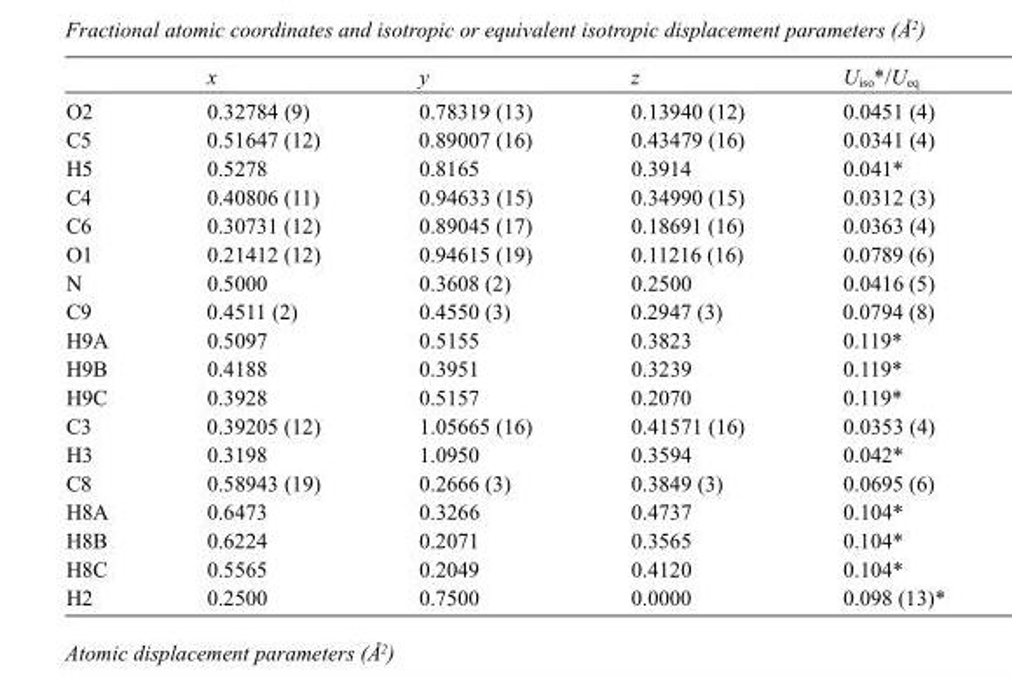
<table><thead><tr><td></td><td>x</td><td>y</td><td>z</td><td>U<sub>iso</sub>*/U<sub>eq</sub></td></tr></thead><tbody><tr><td>O2</td><td>0.32784 (9)</td><td>0.78319 (13)</td><td>0.13940 (12)</td><td>0.0451 (4)</td></tr><tr><td>C5</td><td>0.51647 (12)</td><td>0.89007 (16)</td><td>0.43479 (16)</td><td>0.0341 (4)</td></tr><tr><td>H5</td><td>0.5278</td><td>0.8165</td><td>0.3914</td><td>0.041*</td></tr><tr><td>C4</td><td>0.40806 (11)</td><td>0.94633 (15)</td><td>0.34990 (15)</td><td>0.0312 (3)</td></tr><tr><td>C6</td><td>0.30731 (12)</td><td>0.89045 (17)</td><td>0.18691 (16)</td><td>0.0363 (4)</td></tr><tr><td>O1</td><td>0.21412 (12)</td><td>0.94615 (19)</td><td>0.11216 (16)</td><td>0.0789 (6)</td></tr><tr><td>N</td><td>0.5000</td><td>0.3608 (2)</td><td>0.2500</td><td>0.0416 (5)</td></tr><tr><td>C9</td><td>0.4511 (2)</td><td>0.4550 (3)</td><td>0.2947 (3)</td><td>0.0794 (8)</td></tr><tr><td>H9A</td><td>0.5097</td><td>0.5155</td><td>0.3823</td><td>0.119*</td></tr><tr><td>H9B</td><td>0.4188</td><td>0.3951</td><td>0.3239</td><td>0.119*</td></tr><tr><td>H9C</td><td>0.3928</td><td>0.5157</td><td>0.2070</td><td>0.119*</td></tr><tr><td>C3</td><td>0.39205 (12)</td><td>1.05665 (16)</td><td>0.41571 (16)</td><td>0.0353 (4)</td></tr><tr><td>H3</td><td>0.3198</td><td>1.0950</td><td>0.3594</td><td>0.042*</td></tr><tr><td>C8</td><td>0.58943 (19)</td><td>0.2666 (3)</td><td>0.3849 (3)</td><td>0.0695 (6)</td></tr><tr><td>H8A</td><td>0.6473</td><td>0.3266</td><td>0.4737</td><td>0.104*</td></tr><tr><td>H8B</td><td>0.6224</td><td>0.2071</td><td>0.3565</td><td>0.104*</td></tr><tr><td>H8C</td><td>0.5565</td><td>0.2049</td><td>0.4120</td><td>0.104*</td></tr><tr><td>H2</td><td>0.2500</td><td>0.7500</td><td>0.0000</td><td>0.098 (13)*</td></tr></tbody></table>